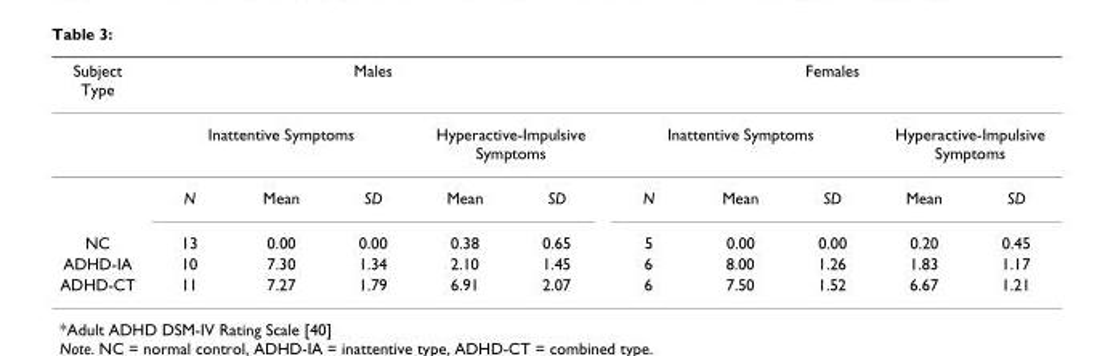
<table><thead><tr><td rowspan="3">Subject Type</td><td colspan="5">Males</td><td colspan="5">Females</td></tr><tr><td colspan="3">Inattentive Symptoms</td><td colspan="2">Hyperactive-Impulsive Symptoms</td><td colspan="3">Inattentive Symptoms</td><td colspan="2">Hyperactive-Impulsive Symptoms</td></tr><tr><td>N</td><td>Mean</td><td>SD</td><td>Mean</td><td>SD</td><td>N</td><td>Mean</td><td>SD</td><td>Mean</td><td>SD</td></tr></thead><tbody><tr><td>NC</td><td>13</td><td>0.00</td><td>0.00</td><td>0.38</td><td>0.65</td><td>5</td><td>0.00</td><td>0.00</td><td>0.20</td><td>0.45</td></tr><tr><td>ADHD-IA</td><td>10</td><td>7.30</td><td>1.34</td><td>2.10</td><td>1.45</td><td>6</td><td>8.00</td><td>1.26</td><td>1.83</td><td>1.17</td></tr><tr><td>ADHD-CT</td><td>11</td><td>7.27</td><td>1.79</td><td>6.91</td><td>2.07</td><td>6</td><td>7.50</td><td>1.52</td><td>6.67</td><td>1.21</td></tr></tbody></table>